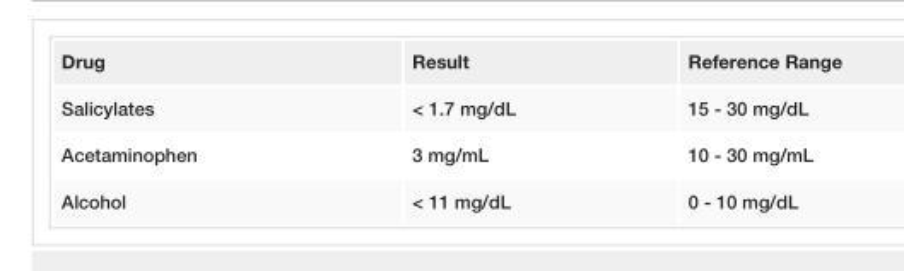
<table><tbody><tr><td>Drug</td><td>Result</td><td>Reference Range</td></tr><tr><td>Salicylates</td><td>&lt; 1.7 mg/dL</td><td>15 - 30 mg/dL</td></tr><tr><td>Acetaminophen</td><td>3 mg/mL</td><td>10 - 30 mg/mL</td></tr><tr><td>Alcohol</td><td>&lt; 11 mg/dL</td><td>0 - 10 mg/dL</td></tr></tbody></table>